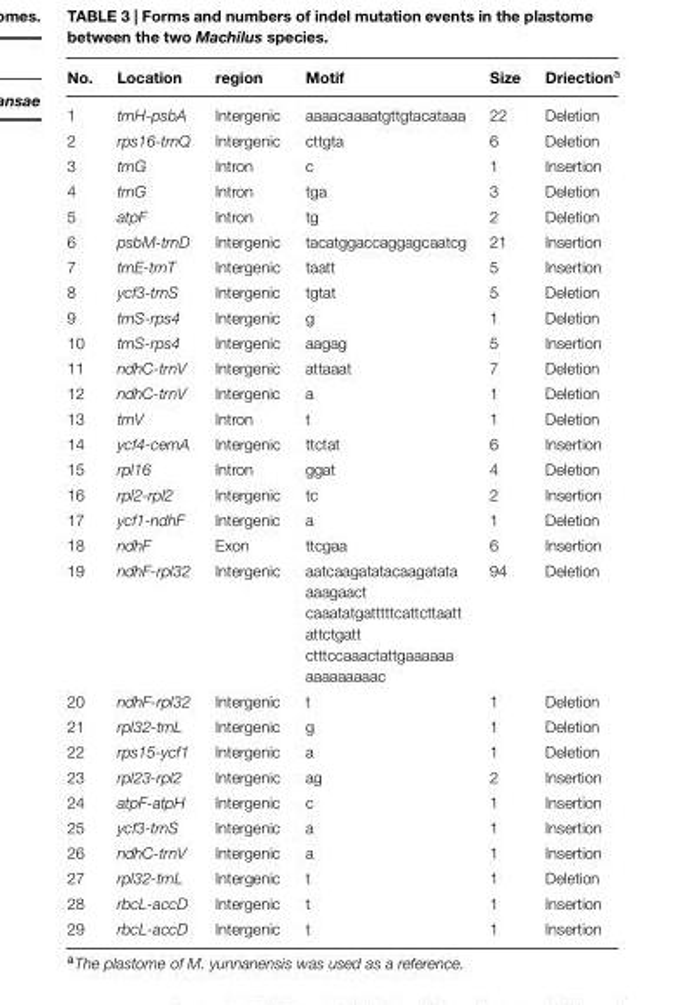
<table><thead><tr><td>No.</td><td>Location</td><td>region</td><td>Motif</td><td>Size</td><td>Driection<sup>a</sup></td></tr></thead><tbody><tr><td>1</td><td>trnH-psbA</td><td>Intergenic</td><td>aaaacaaaatgttgtacataaa</td><td>22</td><td>Deletion</td></tr><tr><td>2</td><td>rps16-trnQ</td><td>Intergenic</td><td>cttgta</td><td>6</td><td>Deletion</td></tr><tr><td>3</td><td>trnG</td><td>Intron</td><td>c</td><td>1</td><td>Insertion</td></tr><tr><td>4</td><td>trnG</td><td>Intron</td><td>tga</td><td>3</td><td>Deletion</td></tr><tr><td>5</td><td>atpF</td><td>Intron</td><td>tg</td><td>2</td><td>Deletion</td></tr><tr><td>6</td><td>psbM-trnD</td><td>Intergenic</td><td>tacatggaccaggagcaatcg</td><td>21</td><td>Insertion</td></tr><tr><td>7</td><td>trnE-trnT</td><td>Intergenic</td><td>taatt</td><td>5</td><td>Insertion</td></tr><tr><td>8</td><td>ycf3-trnS</td><td>Intergenic</td><td>tgtat</td><td>5</td><td>Deletion</td></tr><tr><td>9</td><td>trnS-rps4</td><td>Intergenic</td><td>g</td><td>1</td><td>Deletion</td></tr><tr><td>10</td><td>trnS-rps4</td><td>Intergenic</td><td>aagag</td><td>5</td><td>Insertion</td></tr><tr><td>11</td><td>ndhC-trnV</td><td>Intergenic</td><td>attaaat</td><td>7</td><td>Deletion</td></tr><tr><td>12</td><td>ndhC-trnV</td><td>Intergenic</td><td>a</td><td>1</td><td>Deletion</td></tr><tr><td>13</td><td>trnV</td><td>Intron</td><td>t</td><td>1</td><td>Deletion</td></tr><tr><td>14</td><td>ycf4-cemA</td><td>Intergenic</td><td>ttctat</td><td>6</td><td>Insertion</td></tr><tr><td>15</td><td>rpl16</td><td>Intron</td><td>ggat</td><td>4</td><td>Deletion</td></tr><tr><td>16</td><td>rpl2-rpl2</td><td>Intergenic</td><td>tc</td><td>2</td><td>Insertion</td></tr><tr><td>17</td><td>ycf1-ndhF</td><td>Intergenic</td><td>a</td><td>1</td><td>Deletion</td></tr><tr><td>18</td><td>ndhF</td><td>Exon</td><td>ttcgaa</td><td>6</td><td>Insertion</td></tr><tr><td>19</td><td>ndhF-rpl32</td><td>Intergenic</td><td>aatcaagatatacaagatata aaagaact caaatatgatttttcattcttaatt attctgatt ctttccaaactattgaaaaaa aaaaaaaaac</td><td>94</td><td>Deletion</td></tr><tr><td>20</td><td>ndhF-rpl32</td><td>Intergenic</td><td>t</td><td>1</td><td>Deletion</td></tr><tr><td>21</td><td>rpl32-trnL</td><td>Intergenic</td><td>g</td><td>1</td><td>Deletion</td></tr><tr><td>22</td><td>rps15-ycf1</td><td>Intergenic</td><td>a</td><td>1</td><td>Deletion</td></tr><tr><td>23</td><td>rpl23-rpl2</td><td>Intergenic</td><td>ag</td><td>2</td><td>Insertion</td></tr><tr><td>24</td><td>atpF-atpH</td><td>Intergenic</td><td>c</td><td>1</td><td>Insertion</td></tr><tr><td>25</td><td>ycf3-trnS</td><td>Intergenic</td><td>a</td><td>1</td><td>Insertion</td></tr><tr><td>26</td><td>ndhC-trnV</td><td>Intergenic</td><td>a</td><td>1</td><td>Insertion</td></tr><tr><td>27</td><td>rpl32-trnL</td><td>Intergenic</td><td>t</td><td>1</td><td>Deletion</td></tr><tr><td>28</td><td>rbcL-accD</td><td>Intergenic</td><td>t</td><td>1</td><td>Insertion</td></tr><tr><td>29</td><td>rbcL-accD</td><td>Intergenic</td><td>t</td><td>1</td><td>Insertion</td></tr></tbody></table>